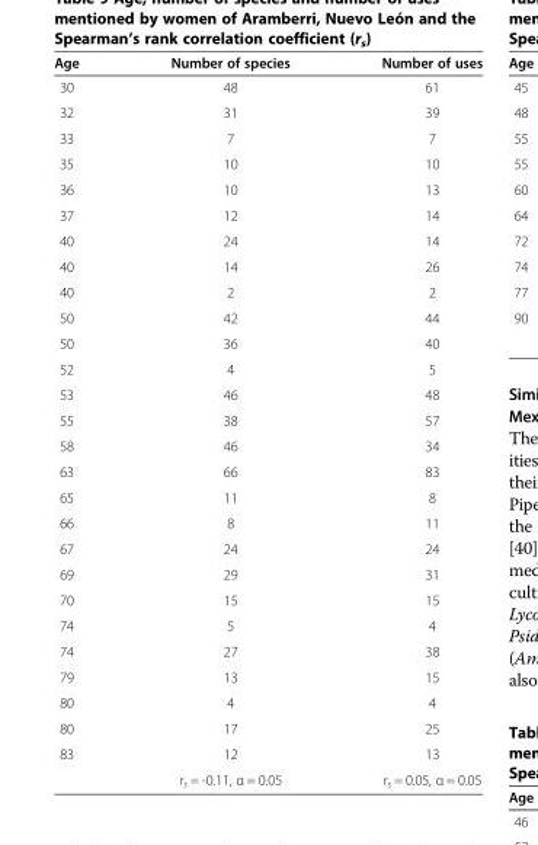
<table><thead><tr><td>Age</td><td>Number of species</td><td>Number of uses</td></tr></thead><tbody><tr><td>30</td><td>48</td><td>61</td></tr><tr><td>32</td><td>31</td><td>39</td></tr><tr><td>33</td><td>7</td><td>7</td></tr><tr><td>35</td><td>10</td><td>10</td></tr><tr><td>36</td><td>10</td><td>13</td></tr><tr><td>37</td><td>12</td><td>14</td></tr><tr><td>40</td><td>24</td><td>14</td></tr><tr><td>40</td><td>14</td><td>26</td></tr><tr><td>40</td><td>2</td><td>2</td></tr><tr><td>50</td><td>42</td><td>44</td></tr><tr><td>50</td><td>36</td><td>40</td></tr><tr><td>52</td><td>4</td><td>5</td></tr><tr><td>53</td><td>46</td><td>48</td></tr><tr><td>55</td><td>38</td><td>57</td></tr><tr><td>58</td><td>46</td><td>34</td></tr><tr><td>63</td><td>66</td><td>83</td></tr><tr><td>65</td><td>11</td><td>8</td></tr><tr><td>66</td><td>8</td><td>11</td></tr><tr><td>67</td><td>24</td><td>24</td></tr><tr><td>69</td><td>29</td><td>31</td></tr><tr><td>70</td><td>15</td><td>15</td></tr><tr><td>74</td><td>5</td><td>4</td></tr><tr><td>74</td><td>27</td><td>38</td></tr><tr><td>79</td><td>13</td><td>15</td></tr><tr><td>80</td><td>4</td><td>4</td></tr><tr><td>80</td><td>17</td><td>25</td></tr><tr><td rowspan="2">83</td><td>12</td><td>13</td></tr><tr><td>r<sub>s</sub> = -0.11, α = 0.05</td><td>r<sub>s</sub> = 0.05, α = 0.05</td></tr></tbody></table>